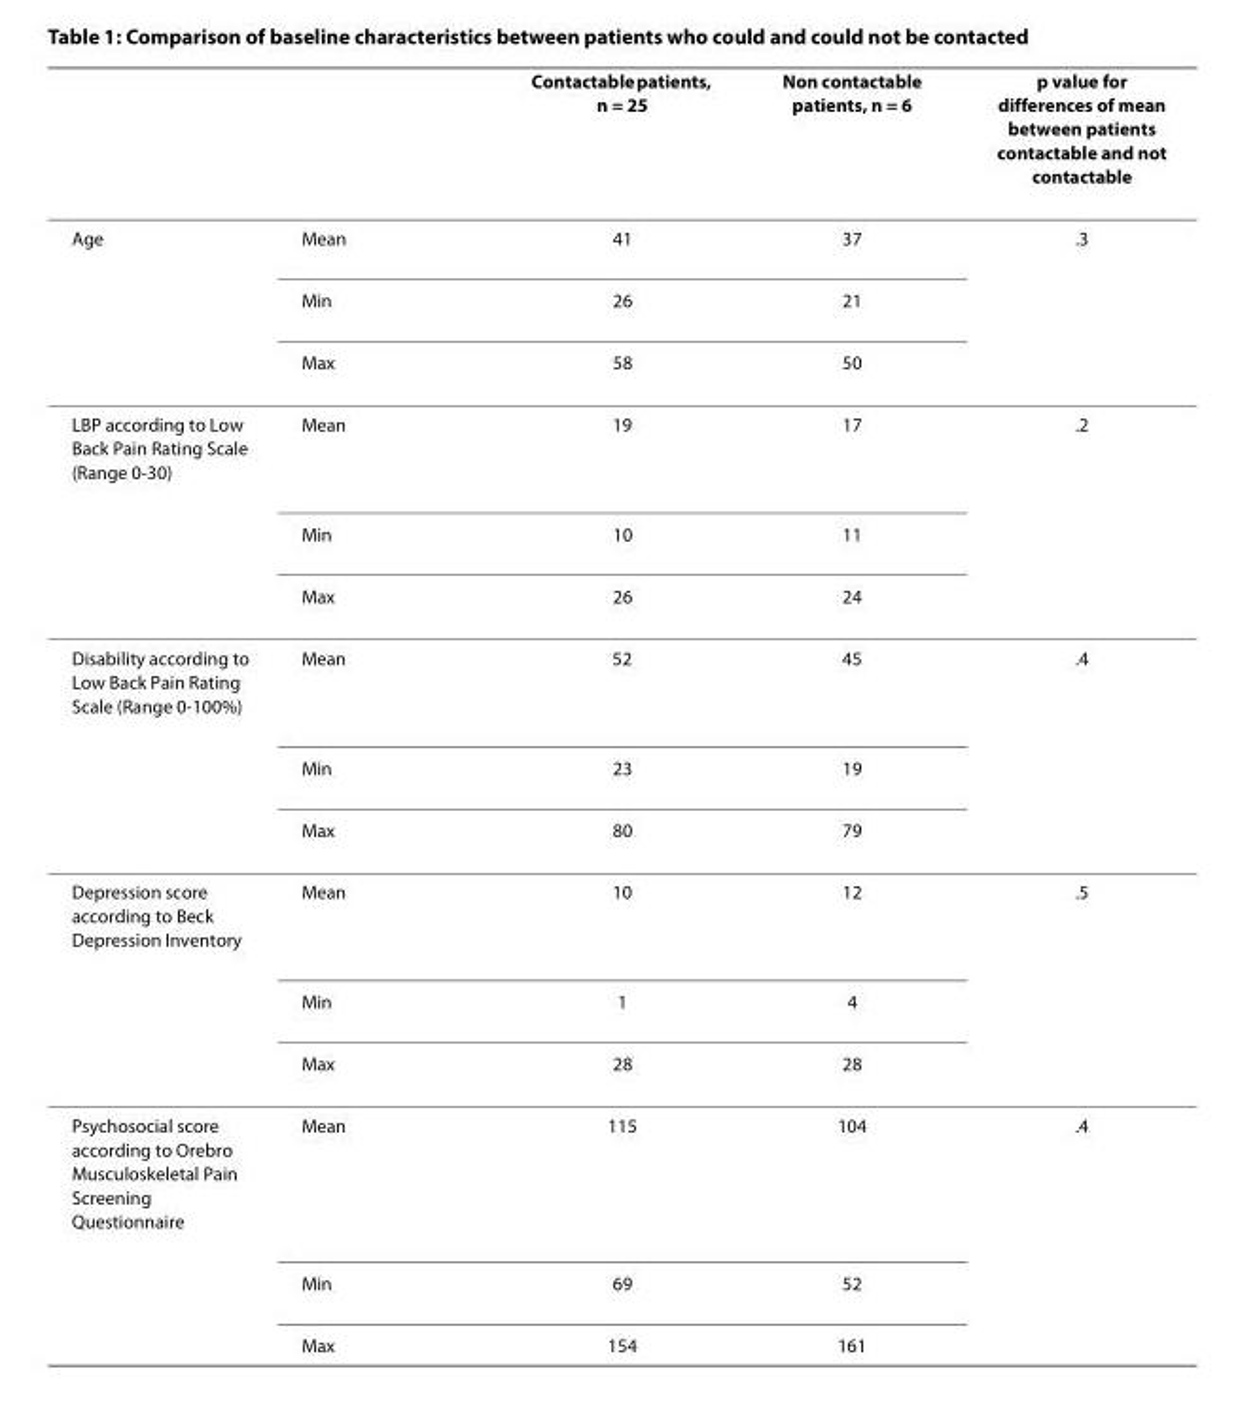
<table><thead><tr><td></td><td></td><td>Contactable patients, n = 25</td><td>Non contactable patients, n = 6</td><td>p value for differences of mean between patients contactable and not contactable</td></tr></thead><tbody><tr><td rowspan="3">Age</td><td>Mean</td><td>41</td><td>37</td><td>.3</td></tr><tr><td>Min</td><td>26</td><td>21</td><td></td></tr><tr><td>Max</td><td>58</td><td>50</td><td></td></tr><tr><td rowspan="3">LBP according to Low Back Pain Rating Scale (Range 0-30)</td><td>Mean</td><td>19</td><td>17</td><td>.2</td></tr><tr><td>Min</td><td>10</td><td>11</td><td></td></tr><tr><td>Max</td><td>26</td><td>24</td><td></td></tr><tr><td rowspan="3">Disability according to Low Back Pain Rating Scale (Range 0-100%)</td><td>Mean</td><td>52</td><td>45</td><td>.4</td></tr><tr><td>Min</td><td>23</td><td>19</td><td></td></tr><tr><td>Max</td><td>80</td><td>79</td><td></td></tr><tr><td rowspan="3">Depression score according to Beck Depression Inventory</td><td>Mean</td><td>10</td><td>12</td><td>.5</td></tr><tr><td>Min</td><td>1</td><td>4</td><td></td></tr><tr><td>Max</td><td>28</td><td>28</td><td></td></tr><tr><td rowspan="3">Psychosocial score according to Orebro Musculoskeletal Pain Screening Questionnaire</td><td>Mean</td><td>115</td><td>104</td><td>.4</td></tr><tr><td>Min</td><td>69</td><td>52</td><td></td></tr><tr><td>Max</td><td>154</td><td>161</td><td></td></tr></tbody></table>